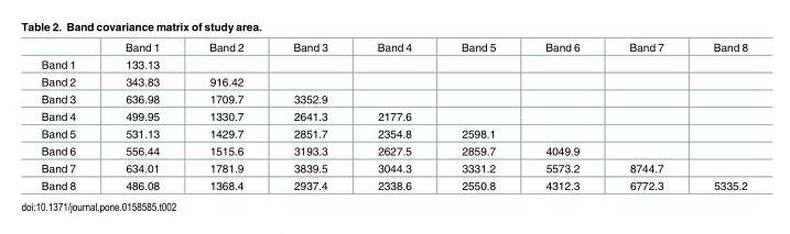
<table><thead><tr><td></td><td>Band 1</td><td>Band 2</td><td>Band 3</td><td>Band 4</td><td>Band 5</td><td>Band 6</td><td>Band 7</td><td>Band 8</td></tr></thead><tbody><tr><td>Band 1</td><td>133.13</td><td></td><td></td><td></td><td></td><td></td><td></td><td></td></tr><tr><td>Band 2</td><td>343.83</td><td>916.42</td><td></td><td></td><td></td><td></td><td></td><td></td></tr><tr><td>Band 3</td><td>636.98</td><td>1709.7</td><td>3352.9</td><td></td><td></td><td></td><td></td><td></td></tr><tr><td>Band 4</td><td>499.95</td><td>1330.7</td><td>2641.3</td><td>2177.6</td><td></td><td></td><td></td><td></td></tr><tr><td>Band 5</td><td>531.13</td><td>1429.7</td><td>2851.7</td><td>2354.8</td><td>2598.1</td><td></td><td></td><td></td></tr><tr><td>Band 6</td><td>556.44</td><td>1515.6</td><td>3193.3</td><td>2627.5</td><td>2859.7</td><td>4049.9</td><td></td><td></td></tr><tr><td>Band 7</td><td>634.01</td><td>1781.9</td><td>3839.5</td><td>3044.3</td><td>3331.2</td><td>5573.2</td><td>8744.7</td><td></td></tr><tr><td>Band 8</td><td>486.08</td><td>1368.4</td><td>2937.4</td><td>2338.6</td><td>2550.8</td><td>4312.3</td><td>6772.3</td><td>5335.2</td></tr></tbody></table>